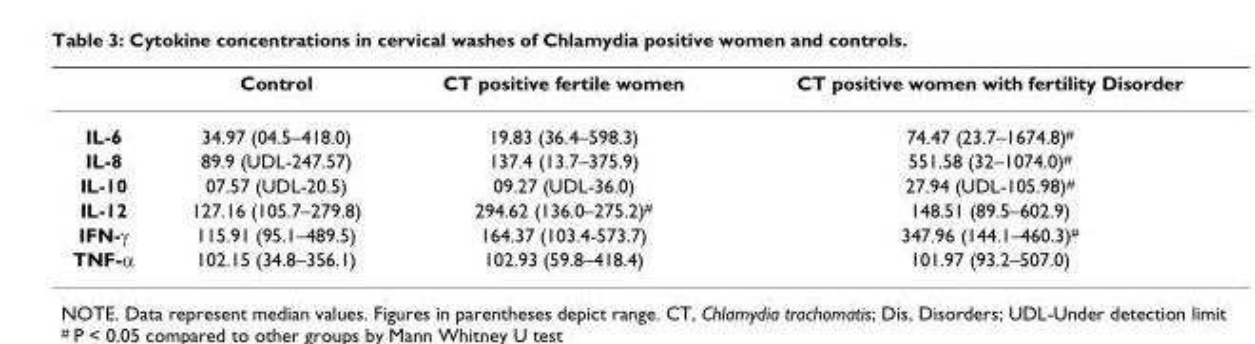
<table><thead><tr><td></td><td>Control</td><td>CT positive fertile women</td><td>CT positive women with fertility Disorder</td></tr></thead><tbody><tr><td>IL-6</td><td>34.97 (04.5–418.0)</td><td>19.83 (36.4–598.3)</td><td>74.47 (23.7–1674.8)<sup>#</sup></td></tr><tr><td>IL-8</td><td>89.9 (UDL-247.57)</td><td>137.4 (13.7–375.9)</td><td>551.58 (32–1074.0)<sup>#</sup></td></tr><tr><td>IL-10</td><td>07.57 (UDL-20.5)</td><td>09.27 (UDL-36.0)</td><td>27.94 (UDL-105.98)<sup>#</sup></td></tr><tr><td>IL-12</td><td>127.16 (105.7–279.8)</td><td>294.62 (136.0–275.2)<sup>#</sup></td><td>148.51 (89.5–602.9)</td></tr><tr><td>IFN-γ</td><td>115.91 (95.1–489.5)</td><td>164.37 (103.4-573.7)</td><td>347.96 (144.1–460.3)<sup>#</sup></td></tr><tr><td>TNF-α</td><td>102.15 (34.8–356.1)</td><td>102.93 (59.8–418.4)</td><td>101.97 (93.2–507.0)</td></tr></tbody></table>